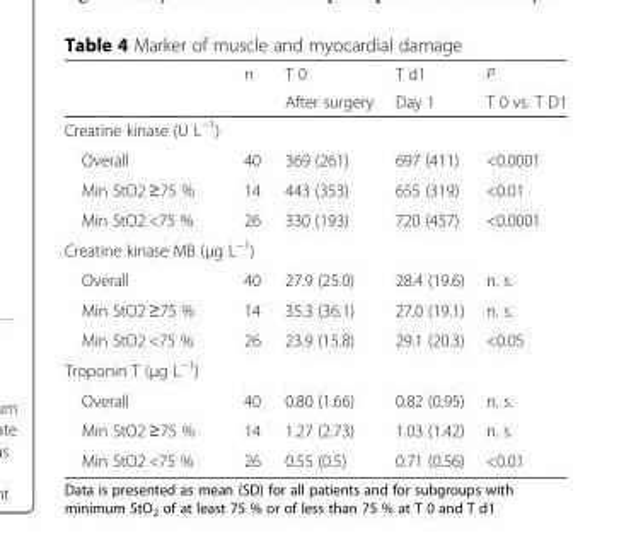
<table><thead><tr><td rowspan="2"></td><td rowspan="2">n</td><td rowspan="2">T 0 After surgery</td><td rowspan="2">T d1 Day 1</td><td rowspan="2">P T 0 vs. T D1</td></tr><tr></tr></thead><tbody><tr><td colspan="5">Creatine kinase (U L<sup>−1</sup>)</td></tr><tr><td>Overall</td><td>40</td><td>369 (261)</td><td>697 (411)</td><td>&lt;0.0001</td></tr><tr><td>Min StO2 ≥75 %</td><td>14</td><td>443 (353)</td><td>655 (319)</td><td>&lt;0.01</td></tr><tr><td>Min StO2 &lt;75 %</td><td>26</td><td>330 (193)</td><td>720 (457)</td><td>&lt;0.0001</td></tr><tr><td colspan="5">Creatine kinase MB (μg L<sup>−1</sup>)</td></tr><tr><td>Overall</td><td>40</td><td>27.9 (25.0)</td><td>28.4 (19.6)</td><td>n. s.</td></tr><tr><td>Min StO2 ≥75 %</td><td>14</td><td>35.3 (36.1)</td><td>27.0 (19.1)</td><td>n. s.</td></tr><tr><td>Min StO2 &lt;75 %</td><td>26</td><td>23.9 (15.8)</td><td>29.1 (20.3)</td><td>&lt;0.05</td></tr><tr><td colspan="5">Troponin T (μg L<sup>−1</sup>)</td></tr><tr><td>Overall</td><td>40</td><td>0.80 (1.66)</td><td>0.82 (0.95)</td><td>n. s.</td></tr><tr><td>Min StO2 ≥75 %</td><td>14</td><td>1.27 (2.73)</td><td>1.03 (1.42)</td><td>n. s.</td></tr><tr><td>Min StO2 &lt;75 %</td><td>26</td><td>0.55 (0.5)</td><td>0.71 (0.56)</td><td>&lt;0.01</td></tr></tbody></table>